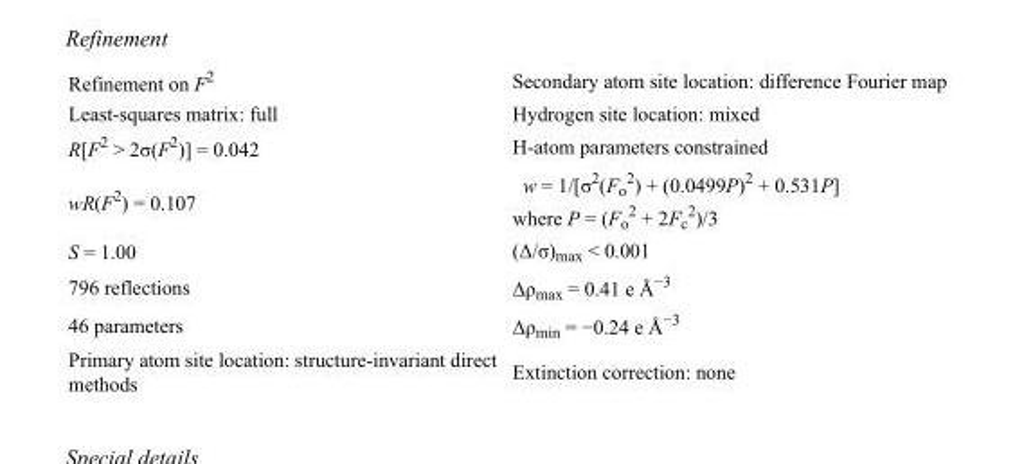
<table><tbody><tr><td>Refinement on F<sup>2</sup></td><td>Secondary atom site location: difference Fourier map</td></tr><tr><td>Least-squares matrix: full</td><td>Hydrogen site location: mixed</td></tr><tr><td>R[F<sup>2</sup> &gt; 2σ(F<sup>2</sup>)] = 0.042</td><td>H-atom parameters constrained</td></tr><tr><td>wR(F<sup>2</sup>) = 0.107</td><td>w = 1/[σ<sup>2</sup>(F<sub>o</sub> <sup>2</sup>) + (0.0499P)<sup>2</sup> + 0.531P] where P = (F<sub>o</sub> <sup>2</sup> + 2F<sub>c</sub> <sup>2</sup>)/3</td></tr><tr><td>S = 1.00</td><td>(Δ/σ)<sub>max</sub> &lt; 0.001</td></tr><tr><td>796 reflections</td><td>Δρ<sub>max</sub> = 0.41 e Å<sup>−3</sup></td></tr><tr><td>46 parameters</td><td>Δρ<sub>min</sub> = −0.24 e Å<sup>−3</sup></td></tr><tr><td>Primary atom site location: structure-invariant direct methods</td><td>Extinction correction: none</td></tr></tbody></table>